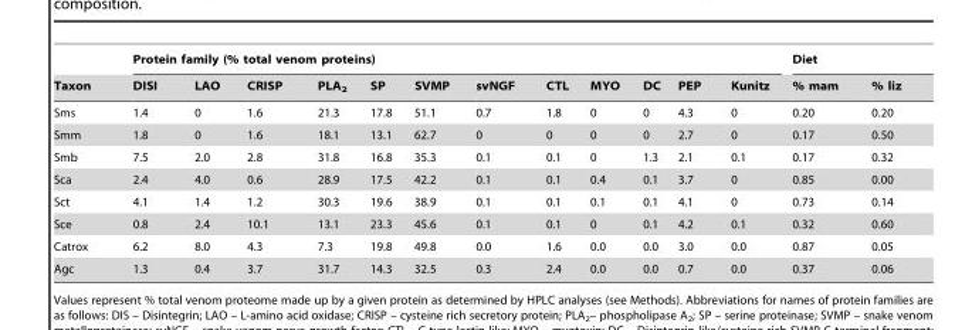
<table><thead><tr><td rowspan="2">Taxon</td><td colspan="12">Protein family (% total venom proteins)</td><td colspan="2">Diet</td></tr><tr><td>DISI</td><td>LAO</td><td>CRISP</td><td>PLA<sub>2</sub></td><td>SP</td><td>SVMP</td><td>svNGF</td><td>CTL</td><td>MYO</td><td>DC</td><td>PEP</td><td>Kunitz</td><td>% mam</td><td>% liz</td></tr></thead><tbody><tr><td>Sms</td><td>1.4</td><td>0</td><td>1.6</td><td>21.3</td><td>17.8</td><td>51.1</td><td>0.7</td><td>1.8</td><td>0</td><td>0</td><td>4.3</td><td>0</td><td>0.20</td><td>0.20</td></tr><tr><td>Smm</td><td>1.8</td><td>0</td><td>1.6</td><td>18.1</td><td>13.1</td><td>62.7</td><td>0</td><td>0</td><td>0</td><td>0</td><td>2.7</td><td>0</td><td>0.17</td><td>0.50</td></tr><tr><td>Smb</td><td>7.5</td><td>2.0</td><td>2.8</td><td>31.8</td><td>16.8</td><td>35.3</td><td>0.1</td><td>0.1</td><td>0</td><td>1.3</td><td>2.1</td><td>0.1</td><td>0.17</td><td>0.32</td></tr><tr><td>Sca</td><td>2.4</td><td>4.0</td><td>0.6</td><td>28.9</td><td>17.5</td><td>42.2</td><td>0.1</td><td>0.1</td><td>0.4</td><td>0.1</td><td>3.7</td><td>0</td><td>0.85</td><td>0.00</td></tr><tr><td>Sct</td><td>4.1</td><td>1.4</td><td>1.2</td><td>30.3</td><td>19.6</td><td>38.9</td><td>0.1</td><td>0.1</td><td>0.1</td><td>0.1</td><td>4.1</td><td>0</td><td>0.73</td><td>0.14</td></tr><tr><td>Sce</td><td>0.8</td><td>2.4</td><td>10.1</td><td>13.1</td><td>23.3</td><td>45.6</td><td>0.1</td><td>0.1</td><td>0</td><td>0.1</td><td>4.2</td><td>0.1</td><td>0.32</td><td>0.60</td></tr><tr><td>Catrox</td><td>6.2</td><td>8.0</td><td>4.3</td><td>7.3</td><td>19.8</td><td>49.8</td><td>0.0</td><td>1.6</td><td>0.0</td><td>0.0</td><td>3.0</td><td>0.0</td><td>0.87</td><td>0.05</td></tr><tr><td>Agc</td><td>1.3</td><td>0.4</td><td>3.7</td><td>31.7</td><td>14.3</td><td>32.5</td><td>0.3</td><td>2.4</td><td>0.0</td><td>0.0</td><td>0.7</td><td>0.0</td><td>0.37</td><td>0.06</td></tr></tbody></table>